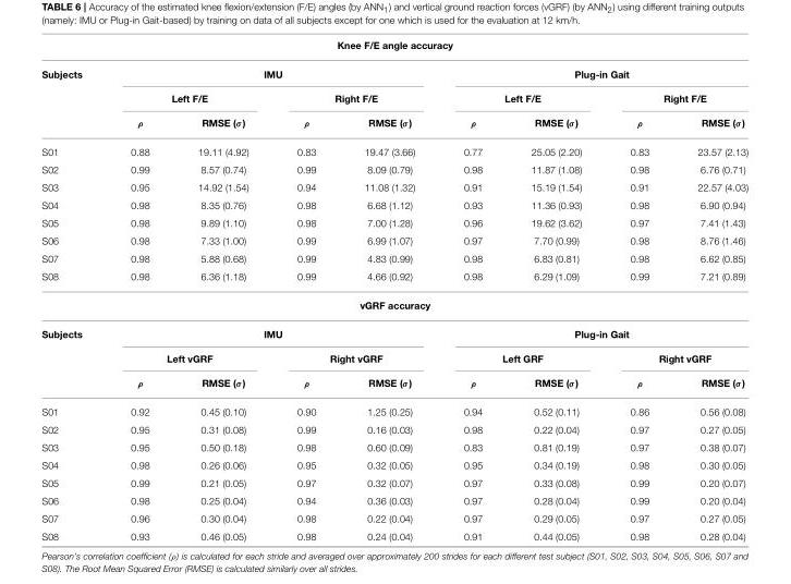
<table><thead><tr><td colspan="9">Knee F/E angle accuracy</td></tr><tr><td rowspan="3">Subjects</td><td colspan="4">IMU</td><td colspan="4">Plug-in Gait</td></tr><tr><td colspan="2">Left F/E</td><td colspan="2">Right F/E</td><td colspan="2">Left F/E</td><td colspan="2">Right F/E</td></tr><tr><td>ρ</td><td>RMSE (σ)</td><td>ρ</td><td>RMSE (σ)</td><td>ρ</td><td>RMSE (σ)</td><td>ρ</td><td>RMSE (σ)</td></tr></thead><tbody><tr><td>S01</td><td>0.88</td><td>19.11 (4.92)</td><td>0.83</td><td>19.47 (3.66)</td><td>0.77</td><td>25.05 (2.20)</td><td>0.83</td><td>23.57 (2.13)</td></tr><tr><td>S02</td><td>0.99</td><td>8.57 (0.74)</td><td>0.99</td><td>8.09 (0.79)</td><td>0.98</td><td>11.87 (1.08)</td><td>0.98</td><td>6.76 (0.71)</td></tr><tr><td>S03</td><td>0.95</td><td>14.92 (1.54)</td><td>0.94</td><td>11.08 (1.32)</td><td>0.91</td><td>15.19 (1.54)</td><td>0.91</td><td>22.57 (4.03)</td></tr><tr><td>S04</td><td>0.98</td><td>8.35 (0.76)</td><td>0.98</td><td>6.68 (1.12)</td><td>0.93</td><td>11.36 (0.93)</td><td>0.98</td><td>6.90 (0.94)</td></tr><tr><td>S05</td><td>0.98</td><td>9.89 (1.10)</td><td>0.98</td><td>7.00 (1.28)</td><td>0.96</td><td>19.62 (3.62)</td><td>0.97</td><td>7.41 (1.43)</td></tr><tr><td>S06</td><td>0.98</td><td>7.33 (1.00)</td><td>0.99</td><td>6.99 (1.07)</td><td>0.97</td><td>7.70 (0.99)</td><td>0.98</td><td>8.76 (1.46)</td></tr><tr><td>S07</td><td>0.98</td><td>5.88 (0.68)</td><td>0.99</td><td>4.83 (0.99)</td><td>0.98</td><td>6.83 (0.81)</td><td>0.98</td><td>6.62 (0.85)</td></tr><tr><td>S08</td><td>0.98</td><td>6.36 (1.18)</td><td>0.99</td><td>4.66 (0.92)</td><td>0.98</td><td>6.29 (1.09)</td><td>0.99</td><td>7.21 (0.89)</td></tr><tr><td colspan="9">vGRF accuracy</td></tr><tr><td rowspan="3">Subjects</td><td colspan="4">IMU</td><td colspan="4">Plug-in Gait</td></tr><tr><td colspan="2">Left vGRF</td><td colspan="2">Right vGRF</td><td colspan="2">Left GRF</td><td colspan="2">Right vGRF</td></tr><tr><td>ρ</td><td>RMSE (σ)</td><td>ρ</td><td>RMSE (σ)</td><td>ρ</td><td>RMSE (σ)</td><td>ρ</td><td>RMSE (σ)</td></tr><tr><td>S01</td><td>0.92</td><td>0.45 (0.10)</td><td>0.90</td><td>1.25 (0.25)</td><td>0.94</td><td>0.52 (0.11)</td><td>0.86</td><td>0.56 (0.08)</td></tr><tr><td>S02</td><td>0.95</td><td>0.31 (0.08)</td><td>0.99</td><td>0.16 (0.03)</td><td>0.98</td><td>0.22 (0.04)</td><td>0.97</td><td>0.27 (0.05)</td></tr><tr><td>S03</td><td>0.95</td><td>0.50 (0.18)</td><td>0.98</td><td>0.60 (0.09)</td><td>0.83</td><td>0.81 (0.19)</td><td>0.97</td><td>0.38 (0.07)</td></tr><tr><td>S04</td><td>0.98</td><td>0.26 (0.06)</td><td>0.95</td><td>0.32 (0.05)</td><td>0.95</td><td>0.34 (0.19)</td><td>0.98</td><td>0.30 (0.05)</td></tr><tr><td>S05</td><td>0.99</td><td>0.21 (0.05)</td><td>0.97</td><td>0.32 (0.07)</td><td>0.97</td><td>0.33 (0.08)</td><td>0.99</td><td>0.20 (0.07)</td></tr><tr><td>S06</td><td>0.98</td><td>0.25 (0.04)</td><td>0.94</td><td>0.36 (0.03)</td><td>0.97</td><td>0.28 (0.04)</td><td>0.99</td><td>0.20 (0.04)</td></tr><tr><td>S07</td><td>0.96</td><td>0.30 (0.04)</td><td>0.98</td><td>0.22 (0.04)</td><td>0.97</td><td>0.29 (0.05)</td><td>0.97</td><td>0.27 (0.05)</td></tr><tr><td>S08</td><td>0.93</td><td>0.46 (0.05)</td><td>0.98</td><td>0.24 (0.04)</td><td>0.91</td><td>0.44 (0.05)</td><td>0.98</td><td>0.28 (0.04)</td></tr></tbody></table>